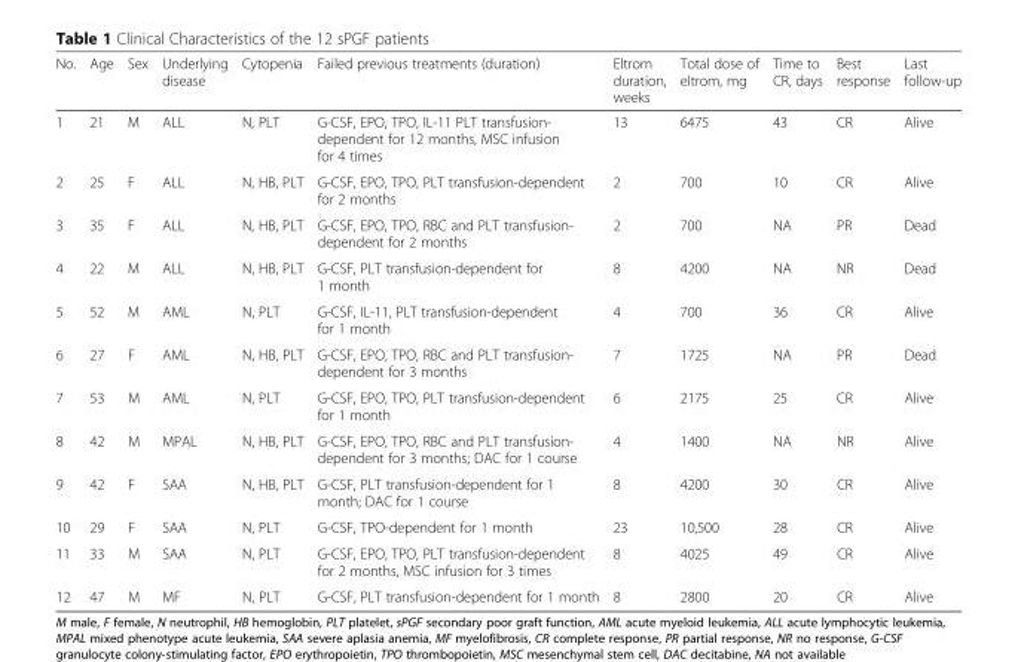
<table><thead><tr><td>No.</td><td>Age</td><td>Sex</td><td>Underlying disease</td><td>Cytopenia</td><td>Failed previous treatments (duration)</td><td>Eltrom duration, weeks</td><td>Total dose of eltrom, mg</td><td>Time to CR, days</td><td>Best response</td><td>Last follow-up</td></tr></thead><tbody><tr><td>1</td><td>21</td><td>M</td><td>ALL</td><td>N, PLT</td><td>G-CSF, EPO, TPO, IL-11 PLT transfusion- dependent for 12 months, MSC infusion for 4 times</td><td>13</td><td>6475</td><td>43</td><td>CR</td><td>Alive</td></tr><tr><td>2</td><td>25</td><td>F</td><td>ALL</td><td>N, HB, PLT</td><td>G-CSF, EPO, TPO, PLT transfusion-dependent for 2 months</td><td>2</td><td>700</td><td>10</td><td>CR</td><td>Alive</td></tr><tr><td>3</td><td>35</td><td>F</td><td>ALL</td><td>N, HB, PLT</td><td>G-CSF, EPO, TPO, RBC and PLT transfusion- dependent for 2 months</td><td>2</td><td>700</td><td>NA</td><td>PR</td><td>Dead</td></tr><tr><td>4</td><td>22</td><td>M</td><td>ALL</td><td>N, HB, PLT</td><td>G-CSF, PLT transfusion-dependent for 1 month</td><td>8</td><td>4200</td><td>NA</td><td>NR</td><td>Dead</td></tr><tr><td>5</td><td>52</td><td>M</td><td>AML</td><td>N, PLT</td><td>G-CSF, IL-11, PLT transfusion-dependent for 1 month</td><td>4</td><td>700</td><td>36</td><td>CR</td><td>Alive</td></tr><tr><td>6</td><td>27</td><td>F</td><td>AML</td><td>N, HB, PLT</td><td>G-CSF, EPO, TPO, RBC and PLT transfusion- dependent for 3 months</td><td>7</td><td>1725</td><td>NA</td><td>PR</td><td>Dead</td></tr><tr><td>7</td><td>53</td><td>M</td><td>AML</td><td>N, PLT</td><td>G-CSF, EPO, TPO, PLT transfusion-dependent for 1 month</td><td>6</td><td>2175</td><td>25</td><td>CR</td><td>Alive</td></tr><tr><td>8</td><td>42</td><td>M</td><td>MPAL</td><td>N, HB, PLT</td><td>G-CSF, EPO, TPO, RBC and PLT transfusion- dependent for 3 months; DAC for 1 course</td><td>4</td><td>1400</td><td>NA</td><td>NR</td><td>Alive</td></tr><tr><td>9</td><td>42</td><td>F</td><td>SAA</td><td>N, HB, PLT</td><td>G-CSF, PLT transfusion-dependent for 1 month; DAC for 1 course</td><td>8</td><td>4200</td><td>30</td><td>CR</td><td>Alive</td></tr><tr><td>10</td><td>29</td><td>F</td><td>SAA</td><td>N, PLT</td><td>G-CSF, TPO-dependent for 1 month</td><td>23</td><td>10,500</td><td>28</td><td>CR</td><td>Alive</td></tr><tr><td>11</td><td>33</td><td>M</td><td>SAA</td><td>N, PLT</td><td>G-CSF, EPO, TPO, PLT transfusion-dependent for 2 months, MSC infusion for 3 times</td><td>8</td><td>4025</td><td>49</td><td>CR</td><td>Alive</td></tr><tr><td>12</td><td>47</td><td>M</td><td>MF</td><td>N, PLT</td><td>G-CSF, PLT transfusion-dependent for 1 month</td><td>8</td><td>2800</td><td>20</td><td>CR</td><td>Alive</td></tr></tbody></table>